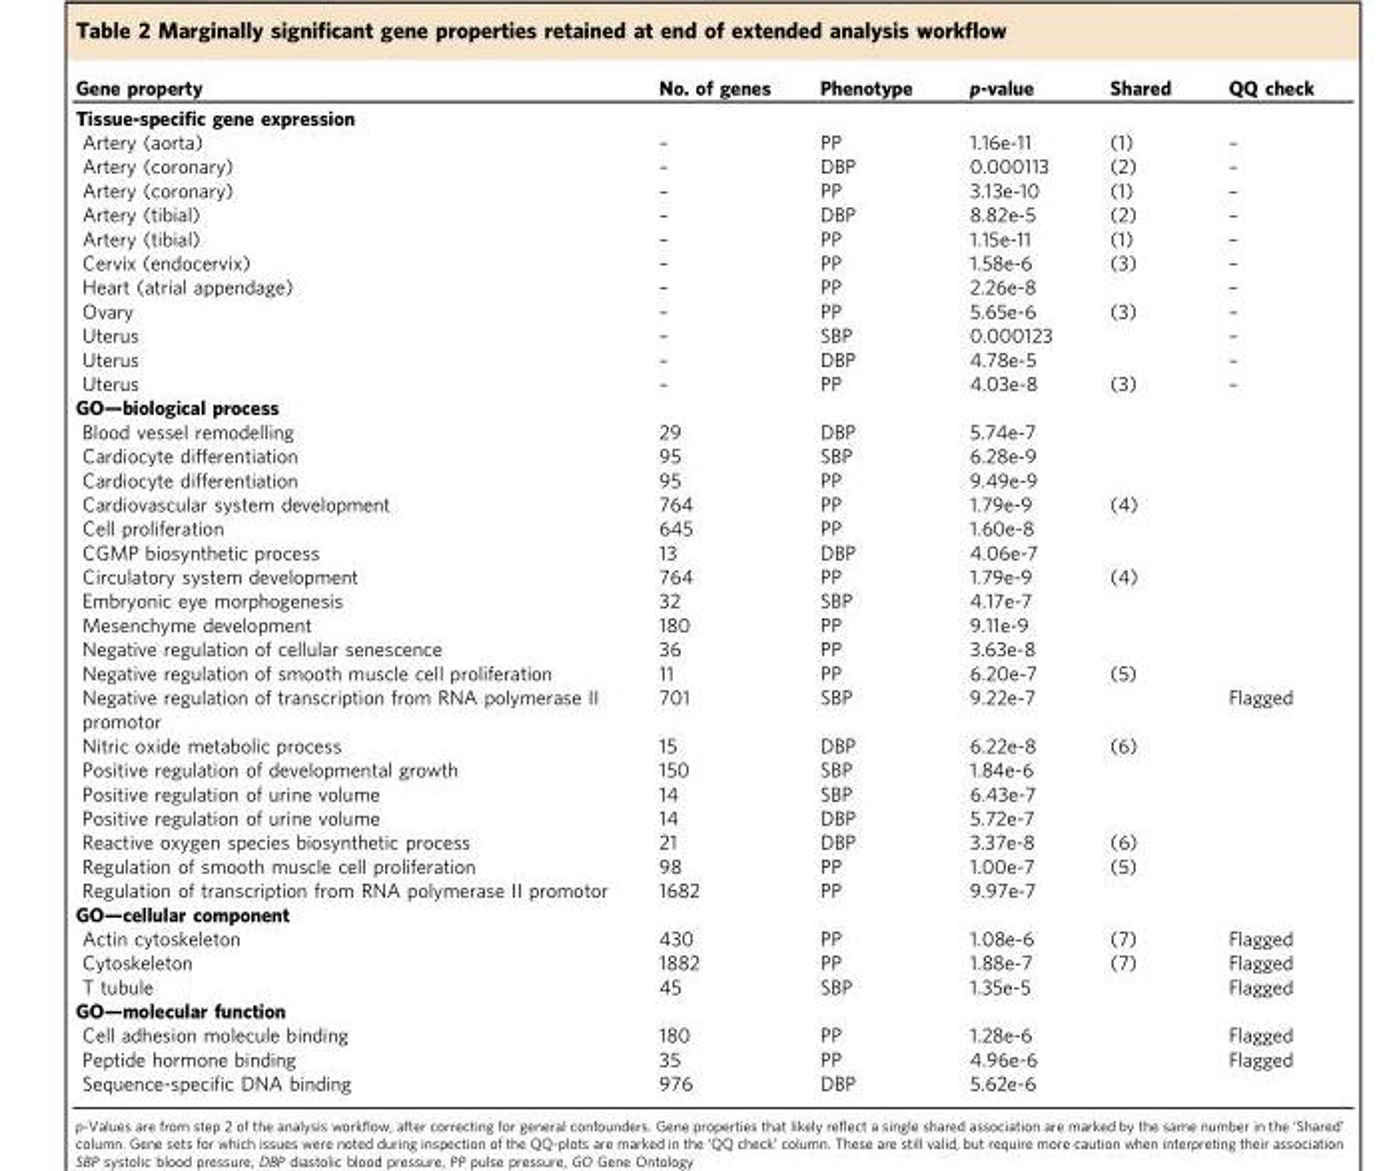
<table><thead><tr><td>Gene property</td><td>No. of genes</td><td>Phenotype</td><td>p-value</td><td>Shared</td><td>QQ check</td></tr></thead><tbody><tr><td colspan="6">Tissue-specific gene expression</td></tr><tr><td>Artery (aorta)</td><td>–</td><td>PP</td><td>1.16e-11</td><td>(1)</td><td>–</td></tr><tr><td>Artery (coronary)</td><td>–</td><td>DBP</td><td>0.000113</td><td>(2)</td><td>–</td></tr><tr><td>Artery (coronary)</td><td>–</td><td>PP</td><td>3.13e-10</td><td>(1)</td><td>–</td></tr><tr><td>Artery (tibial)</td><td>–</td><td>DBP</td><td>8.82e-5</td><td>(2)</td><td>–</td></tr><tr><td>Artery (tibial)</td><td>–</td><td>PP</td><td>1.15e-11</td><td>(1)</td><td>–</td></tr><tr><td>Cervix (endocervix)</td><td>–</td><td>PP</td><td>1.58e-6</td><td>(3)</td><td>–</td></tr><tr><td>Heart (atrial appendage)</td><td>–</td><td>PP</td><td>2.26e-8</td><td></td><td>–</td></tr><tr><td>Ovary</td><td>–</td><td>PP</td><td>5.65e-6</td><td>(3)</td><td>–</td></tr><tr><td>Uterus</td><td>–</td><td>SBP</td><td>0.000123</td><td></td><td>–</td></tr><tr><td>Uterus</td><td>–</td><td>DBP</td><td>4.78e-5</td><td></td><td>–</td></tr><tr><td>Uterus</td><td>–</td><td>PP</td><td>4.03e-8</td><td>(3)</td><td>–</td></tr><tr><td colspan="6">GO—biological process</td></tr><tr><td>Blood vessel remodelling</td><td>29</td><td>DBP</td><td>5.74e-7</td><td></td><td></td></tr><tr><td>Cardiocyte differentiation</td><td>95</td><td>SBP</td><td>6.28e-9</td><td></td><td></td></tr><tr><td>Cardiocyte differentiation</td><td>95</td><td>PP</td><td>9.49e-9</td><td></td><td></td></tr><tr><td>Cardiovascular system development</td><td>764</td><td>PP</td><td>1.79e-9</td><td>(4)</td><td></td></tr><tr><td>Cell proliferation</td><td>645</td><td>PP</td><td>1.60e-8</td><td></td><td></td></tr><tr><td>CGMP biosynthetic process</td><td>13</td><td>DBP</td><td>4.06e-7</td><td></td><td></td></tr><tr><td>Circulatory system development</td><td>764</td><td>PP</td><td>1.79e-9</td><td>(4)</td><td></td></tr><tr><td>Embryonic eye morphogenesis</td><td>32</td><td>SBP</td><td>4.17e-7</td><td></td><td></td></tr><tr><td>Mesenchyme development</td><td>180</td><td>PP</td><td>9.11e-9</td><td></td><td></td></tr><tr><td>Negative regulation of cellular senescence</td><td>36</td><td>PP</td><td>3.63e-8</td><td></td><td></td></tr><tr><td>Negative regulation of smooth muscle cell proliferation</td><td>11</td><td>PP</td><td>6.20e-7</td><td>(5)</td><td></td></tr><tr><td>Negative regulation of transcription from RNA polymerase II promotor</td><td>701</td><td>SBP</td><td>9.22e-7</td><td></td><td>Flagged</td></tr><tr><td>Nitric oxide metabolic process</td><td>15</td><td>DBP</td><td>6.22e-8</td><td>(6)</td><td></td></tr><tr><td>Positive regulation of developmental growth</td><td>150</td><td>SBP</td><td>1.84e-6</td><td></td><td></td></tr><tr><td>Positive regulation of urine volume</td><td>14</td><td>SBP</td><td>6.43e-7</td><td></td><td></td></tr><tr><td>Positive regulation of urine volume</td><td>14</td><td>DBP</td><td>5.72e-7</td><td></td><td></td></tr><tr><td>Reactive oxygen species biosynthetic process</td><td>21</td><td>DBP</td><td>3.37e-8</td><td>(6)</td><td></td></tr><tr><td>Regulation of smooth muscle cell proliferation</td><td>98</td><td>PP</td><td>1.00e-7</td><td>(5)</td><td></td></tr><tr><td>Regulation of transcription from RNA polymerase II promotor</td><td>1682</td><td>PP</td><td>9.97e-7</td><td></td><td></td></tr><tr><td colspan="6">GO—cellular component</td></tr><tr><td>Actin cytoskeleton</td><td>430</td><td>PP</td><td>1.08e-6</td><td>(7)</td><td>Flagged</td></tr><tr><td>Cytoskeleton</td><td>1882</td><td>PP</td><td>1.88e-7</td><td>(7)</td><td>Flagged</td></tr><tr><td>T tubule</td><td>45</td><td>SBP</td><td>1.35e-5</td><td></td><td>Flagged</td></tr><tr><td colspan="6">GO—molecular function</td></tr><tr><td>Cell adhesion molecule binding</td><td>180</td><td>PP</td><td>1.28e-6</td><td></td><td>Flagged</td></tr><tr><td>Peptide hormone binding</td><td>35</td><td>PP</td><td>4.96e-6</td><td></td><td>Flagged</td></tr><tr><td>Sequence-specific DNA binding</td><td>976</td><td>DBP</td><td>5.62e-6</td><td></td><td></td></tr></tbody></table>